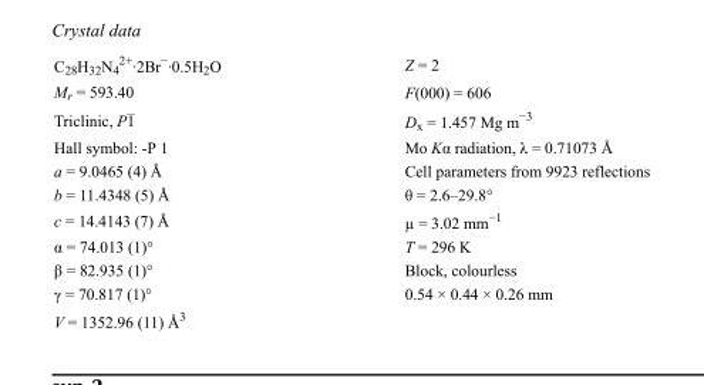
<table><tbody><tr><td>C<sub>28</sub>H<sub>32</sub>N<sub>4</sub> <sup>2+</sup>·2Br<sup>−</sup>·0.5H<sub>2</sub>O</td><td>Z = 2</td></tr><tr><td>M<sub>r</sub> = 593.40</td><td>F(000) = 606</td></tr><tr><td>Triclinic, P1</td><td>D<sub>x</sub> = 1.457 Mg m<sup>−3</sup></td></tr><tr><td>Hall symbol: -P 1</td><td>Mo Kα radiation, λ = 0.71073 Å</td></tr><tr><td>a = 9.0465 (4) Å</td><td>Cell parameters from 9923 reflections</td></tr><tr><td>b = 11.4348 (5) Å</td><td>θ = 2.6–29.8°</td></tr><tr><td>c = 14.4143 (7) Å</td><td>µ = 3.02 mm<sup>−1</sup></td></tr><tr><td>α = 74.013 (1)°</td><td>T = 296 K</td></tr><tr><td>β = 82.935 (1)°</td><td>Block, colourless</td></tr><tr><td>γ = 70.817 (1)°</td><td>0.54 × 0.44 × 0.26 mm</td></tr><tr><td>V = 1352.96 (11) Å<sup>3</sup></td><td></td></tr></tbody></table>